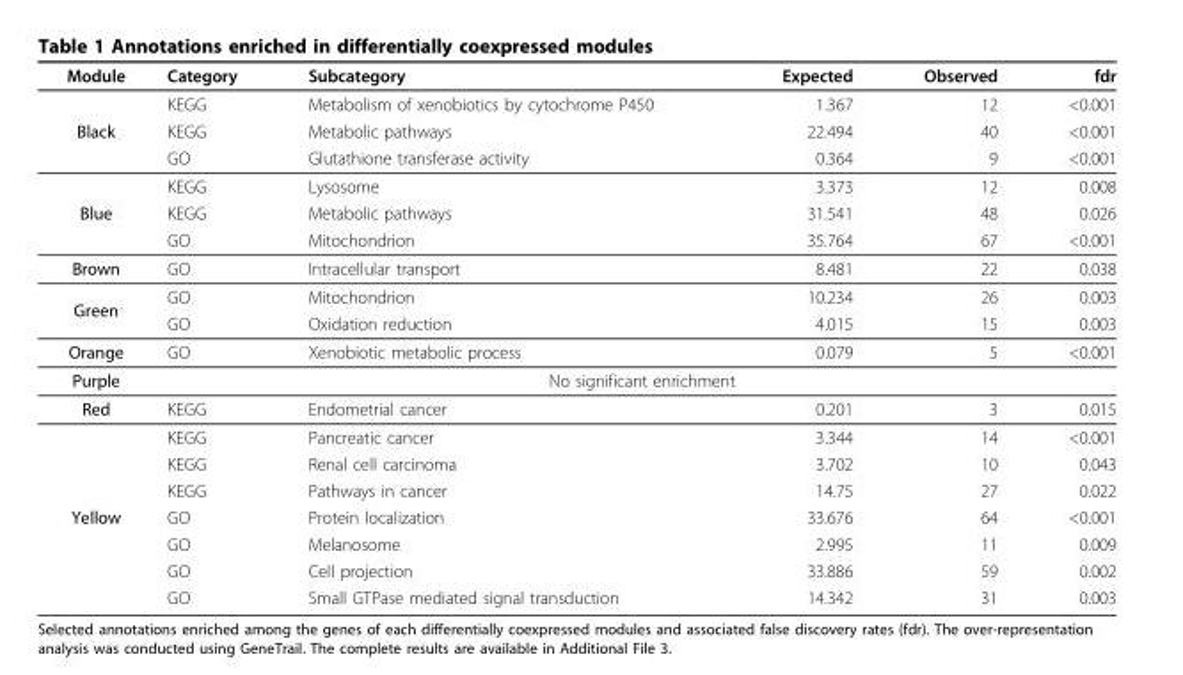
<table><thead><tr><td>Module</td><td>Category</td><td>Subcategory</td><td>Expected</td><td>Observed</td><td>fdr</td></tr></thead><tbody><tr><td rowspan="3">Black</td><td>KEGG</td><td>Metabolism of xenobiotics by cytochrome P450</td><td>1.367</td><td>12</td><td>&lt;0.001</td></tr><tr><td>KEGG</td><td>Metabolic pathways</td><td>22.494</td><td>40</td><td>&lt;0.001</td></tr><tr><td>GO</td><td>Glutathione transferase activity</td><td>0.364</td><td>9</td><td>&lt;0.001</td></tr><tr><td rowspan="3">Blue</td><td>KEGG</td><td>Lysosome</td><td>3.373</td><td>12</td><td>0.008</td></tr><tr><td>KEGG</td><td>Metabolic pathways</td><td>31.541</td><td>48</td><td>0.026</td></tr><tr><td>GO</td><td>Mitochondrion</td><td>35.764</td><td>67</td><td>&lt;0.001</td></tr><tr><td>Brown</td><td>GO</td><td>Intracellular transport</td><td>8.481</td><td>22</td><td>0.038</td></tr><tr><td rowspan="2">Green</td><td>GO</td><td>Mitochondrion</td><td>10.234</td><td>26</td><td>0.003</td></tr><tr><td>GO</td><td>Oxidation reduction</td><td>4.015</td><td>15</td><td>0.003</td></tr><tr><td>Orange</td><td>GO</td><td>Xenobiotic metabolic process</td><td>0.079</td><td>5</td><td>&lt;0.001</td></tr><tr><td>Purple</td><td colspan="2">No significant enrichment</td><td></td><td></td><td></td></tr><tr><td>Red</td><td>KEGG</td><td>Endometrial cancer</td><td>0.201</td><td>3</td><td>0.015</td></tr><tr><td rowspan="7">Yellow</td><td>KEGG</td><td>Pancreatic cancer</td><td>3.344</td><td>14</td><td>&lt;0.001</td></tr><tr><td>KEGG</td><td>Renal cell carcinoma</td><td>3.702</td><td>10</td><td>0.043</td></tr><tr><td>KEGG</td><td>Pathways in cancer</td><td>14.75</td><td>27</td><td>0.022</td></tr><tr><td>GO</td><td>Protein localization</td><td>33.676</td><td>64</td><td>&lt;0.001</td></tr><tr><td>GO</td><td>Melanosome</td><td>2.995</td><td>11</td><td>0.009</td></tr><tr><td>GO</td><td>Cell projection</td><td>33.886</td><td>59</td><td>0.002</td></tr><tr><td>GO</td><td>Small GTPase mediated signal transduction</td><td>14.342</td><td>31</td><td>0.003</td></tr></tbody></table>